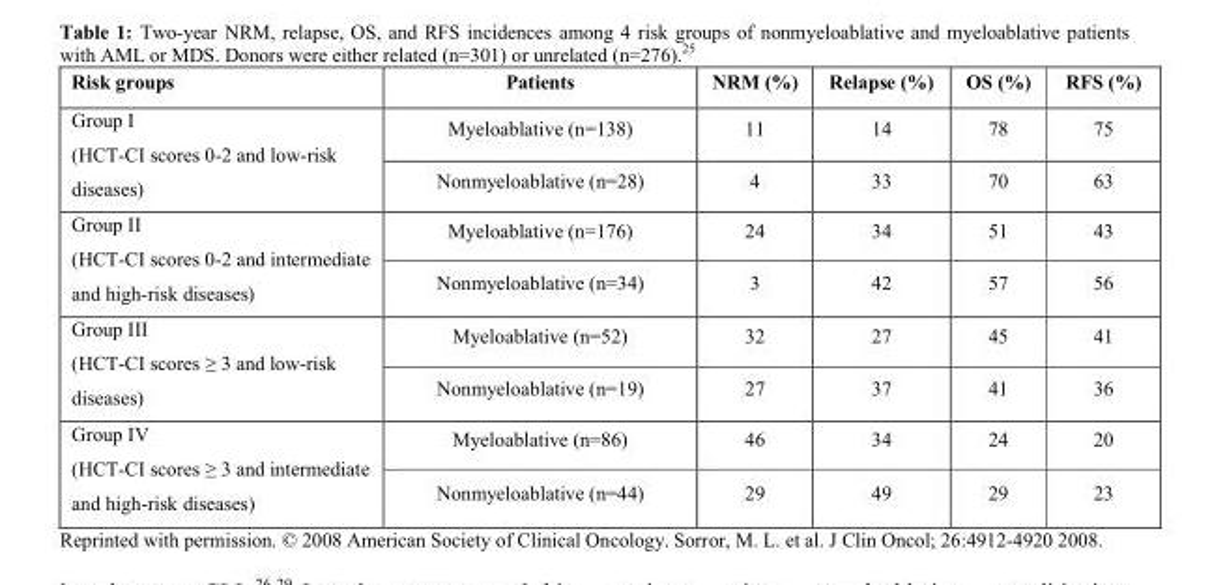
<table><thead><tr><td>Risk groups</td><td>Patients</td><td>NRM (%)</td><td>Relapse (%)</td><td>OS (%)</td><td>RFS (%)</td></tr></thead><tbody><tr><td rowspan="2">Group I (HCT-CI scores 0-2 and low-risk diseases)</td><td>Myeloablative (n=138)</td><td>11</td><td>14</td><td>78</td><td>75</td></tr><tr><td>Nonmyeloablative (n=28)</td><td>4</td><td>33</td><td>70</td><td>63</td></tr><tr><td rowspan="2">Group II (HCT-CI scores 0-2 and intermediate and high-risk diseases)</td><td>Myeloablative (n=176)</td><td>24</td><td>34</td><td>51</td><td>43</td></tr><tr><td>Nonmyeloablative (n=34)</td><td>3</td><td>42</td><td>57</td><td>56</td></tr><tr><td rowspan="2">Group III (HCT-CI scores ≥ 3 and low-risk diseases)</td><td>Myeloablative (n=52)</td><td>32</td><td>27</td><td>45</td><td>41</td></tr><tr><td>Nonmyeloablative (n=19)</td><td>27</td><td>37</td><td>41</td><td>36</td></tr><tr><td rowspan="2">Group IV (HCT-CI scores ≥ 3 and intermediate and high-risk diseases)</td><td>Myeloablative (n=86)</td><td>46</td><td>34</td><td>24</td><td>20</td></tr><tr><td>Nonmyeloablative (n=44)</td><td>29</td><td>49</td><td>29</td><td>23</td></tr></tbody></table>